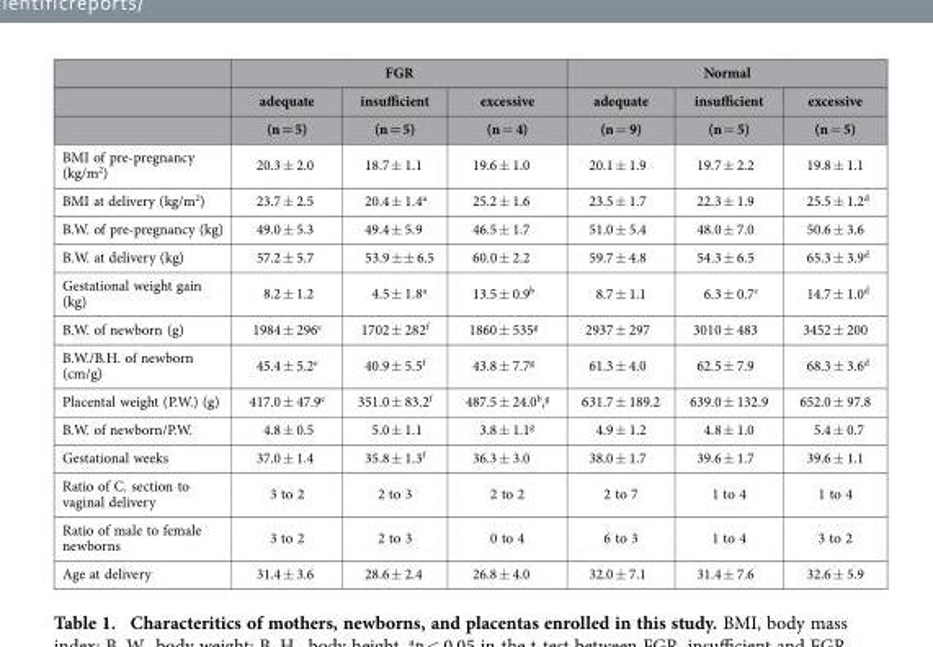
<table><thead><tr><td rowspan="3"></td><td colspan="3">FGR</td><td colspan="3">Normal</td></tr><tr><td rowspan="2">adequate (n = 5)</td><td rowspan="2">insufficient (n = 5)</td><td rowspan="2">excessive (n = 4)</td><td rowspan="2">adequate (n = 9)</td><td rowspan="2">insufficient (n = 5)</td><td rowspan="2">excessive (n = 5)</td></tr><tr></tr></thead><tbody><tr><td>BMI of pre-pregnancy (kg/m<sup>2</sup>)</td><td>20.3 ± 2.0</td><td>18.7 ± 1.1</td><td>19.6 ± 1.0</td><td>20.1 ± 1.9</td><td>19.7 ± 2.2</td><td>19.8 ± 1.1</td></tr><tr><td>BMI at delivery (kg/m<sup>2</sup>)</td><td>23.7 ± 2.5</td><td>20.4 ± 1.4<sup>a</sup></td><td>25.2 ± 1.6</td><td>23.5 ± 1.7</td><td>22.3 ± 1.9</td><td>25.5 ± 1.2<sup>d</sup></td></tr><tr><td>B.W. of pre-pregnancy (kg)</td><td>49.0 ± 5.3</td><td>49.4 ± 5.9</td><td>46.5 ± 1.7</td><td>51.0 ± 5.4</td><td>48.0 ± 7.0</td><td>50.6 ± 3.6</td></tr><tr><td>B.W. at delivery (kg)</td><td>57.2 ± 5.7</td><td>53.9 ± ± 6.5</td><td>60.0 ± 2.2</td><td>59.7 ± 4.8</td><td>54.3 ± 6.5</td><td>65.3 ± 3.9<sup>d</sup></td></tr><tr><td>Gestational weight gain (kg)</td><td>8.2 ± 1.2</td><td>4.5 ± 1.8<sup>a</sup></td><td>13.5 ± 0.9<sup>b</sup></td><td>8.7 ± 1.1</td><td>6.3 ± 0.7<sup>c</sup></td><td>14.7 ± 1.0<sup>d</sup></td></tr><tr><td>B.W. of newborn (g)</td><td>1984 ± 296<sup>e</sup></td><td>1702 ± 282<sup>f</sup></td><td>1860 ± 535<sup>g</sup></td><td>2937 ± 297</td><td>3010 ± 483</td><td>3452 ± 200</td></tr><tr><td>B.W./B.H. of newborn (cm/g)</td><td>45.4 ± 5.2<sup>e</sup></td><td>40.9 ± 5.5<sup>f</sup></td><td>43.8 ± 7.7<sup>g</sup></td><td>61.3 ± 4.0</td><td>62.5 ± 7.9</td><td>68.3 ± 3.6<sup>d</sup></td></tr><tr><td>Placental weight (P.W.) (g)</td><td>417.0 ± 47.9<sup>e</sup></td><td>351.0 ± 83.2<sup>f</sup></td><td>487.5 ± 24.0<sup>b</sup>,<sup>g</sup></td><td>631.7 ± 189.2</td><td>639.0 ± 132.9</td><td>652.0 ± 97.8</td></tr><tr><td>B.W. of newborn/P.W.</td><td>4.8 ± 0.5</td><td>5.0 ± 1.1</td><td>3.8 ± 1.1<sup>g</sup></td><td>4.9 ± 1.2</td><td>4.8 ± 1.0</td><td>5.4 ± 0.7</td></tr><tr><td>Gestational weeks</td><td>37.0 ± 1.4</td><td>35.8 ± 1.3<sup>f</sup></td><td>36.3 ± 3.0</td><td>38.0 ± 1.7</td><td>39.6 ± 1.7</td><td>39.6 ± 1.1</td></tr><tr><td>Ratio of C. section to vaginal delivery</td><td>3 to 2</td><td>2 to 3</td><td>2 to 2</td><td>2 to 7</td><td>1 to 4</td><td>1 to 4</td></tr><tr><td>Ratio of male to female newborns</td><td>3 to 2</td><td>2 to 3</td><td>0 to 4</td><td>6 to 3</td><td>1 to 4</td><td>3 to 2</td></tr><tr><td>Age at delivery</td><td>31.4 ± 3.6</td><td>28.6 ± 2.4</td><td>26.8 ± 4.0</td><td>32.0 ± 7.1</td><td>31.4 ± 7.6</td><td>32.6 ± 5.9</td></tr></tbody></table>